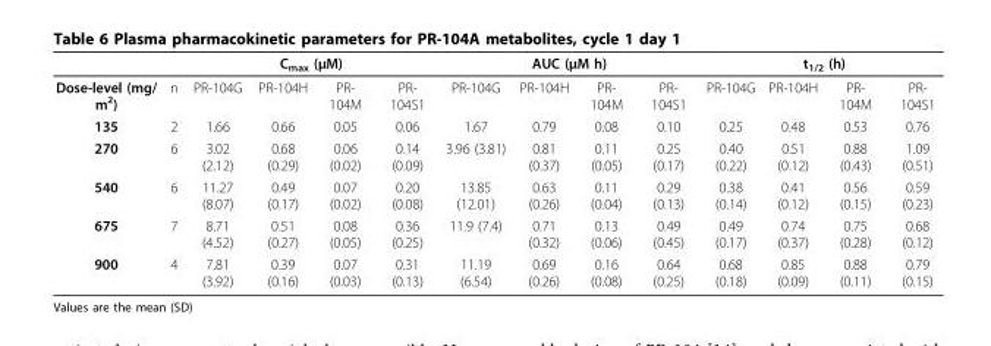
<table><thead><tr><td rowspan="2">Dose-level (mg/ m<sup>2</sup>)</td><td rowspan="2">n</td><td colspan="4">C<sub>max</sub> (μM)</td><td colspan="4">AUC (μM h)</td><td colspan="4">t<sub>1/2</sub> (h)</td></tr><tr><td>PR-104G</td><td>PR-104H</td><td>PR- 104M</td><td>PR- 104S1</td><td>PR-104G</td><td>PR-104H</td><td>PR- 104M</td><td>PR- 104S1</td><td>PR-104G</td><td>PR-104H</td><td>PR- 104M</td><td>PR- 104S1</td></tr></thead><tbody><tr><td>135</td><td>2</td><td>1.66</td><td>0.66</td><td>0.05</td><td>0.06</td><td>1.67</td><td>0.79</td><td>0.08</td><td>0.10</td><td>0.25</td><td>0.48</td><td>0.53</td><td>0.76</td></tr><tr><td>270</td><td>6</td><td>3.02 (2.12)</td><td>0.68 (0.29)</td><td>0.06 (0.02)</td><td>0.14 (0.09)</td><td>3.96 (3.81)</td><td>0.81 (0.37)</td><td>0.11 (0.05)</td><td>0.25 (0.17)</td><td>0.40 (0.22)</td><td>0.51 (0.12)</td><td>0.88 (0.43)</td><td>1.09 (0.51)</td></tr><tr><td>540</td><td>6</td><td>11.27 (8.07)</td><td>0.49 (0.17)</td><td>0.07 (0.02)</td><td>0.20 (0.08)</td><td>13.85 (12.01)</td><td>0.63 (0.26)</td><td>0.11 (0.04)</td><td>0.29 (0.13)</td><td>0.38 (0.14)</td><td>0.41 (0.12)</td><td>0.56 (0.15)</td><td>0.59 (0.23)</td></tr><tr><td>675</td><td>7</td><td>8.71 (4.52)</td><td>0.51 (0.27)</td><td>0.08 (0.05)</td><td>0.36 (0.25)</td><td>11.9 (7.4)</td><td>0.71 (0.32)</td><td>0.13 (0.06)</td><td>0.49 (0.45)</td><td>0.49 (0.17)</td><td>0.74 (0.37)</td><td>0.75 (0.28)</td><td>0.68 (0.12)</td></tr><tr><td>900</td><td>4</td><td>7.81 (3.92)</td><td>0.39 (0.16)</td><td>0.07 (0.03)</td><td>0.31 (0.13)</td><td>11.19 (6.54)</td><td>0.69 (0.26)</td><td>0.16 (0.08)</td><td>0.64 (0.25)</td><td>0.68 (0.18)</td><td>0.85 (0.09)</td><td>0.88 (0.11)</td><td>0.79 (0.15)</td></tr></tbody></table>